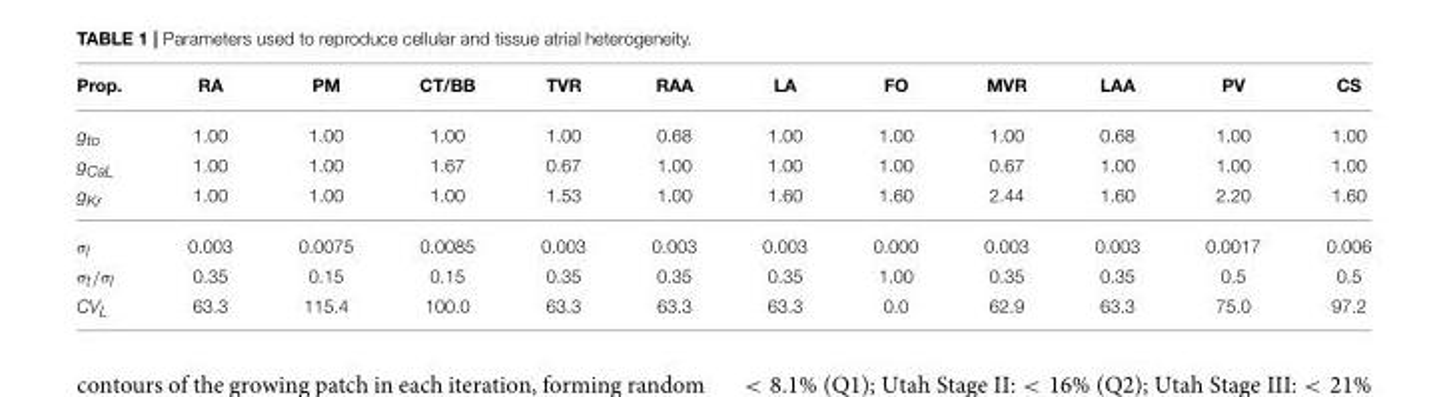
<table><thead><tr><td>Prop.</td><td>RA</td><td>PM</td><td>CT/BB</td><td>TVR</td><td>RAA</td><td>LA</td><td>FO</td><td>MVR</td><td>LAA</td><td>PV</td><td>CS</td></tr></thead><tbody><tr><td>g<sub>to</sub></td><td>1.00</td><td>1.00</td><td>1.00</td><td>1.00</td><td>0.68</td><td>1.00</td><td>1.00</td><td>1.00</td><td>0.68</td><td>1.00</td><td>1.00</td></tr><tr><td>g<sub>CaL</sub></td><td>1.00</td><td>1.00</td><td>1.67</td><td>0.67</td><td>1.00</td><td>1.00</td><td>1.00</td><td>0.67</td><td>1.00</td><td>1.00</td><td>1.00</td></tr><tr><td>g<sub>Kr</sub></td><td>1.00</td><td>1.00</td><td>1.00</td><td>1.53</td><td>1.00</td><td>1.60</td><td>1.60</td><td>2.44</td><td>1.60</td><td>2.20</td><td>1.60</td></tr><tr><td>σ<sub>l</sub></td><td>0.003</td><td>0.0075</td><td>0.0085</td><td>0.003</td><td>0.003</td><td>0.003</td><td>0.000</td><td>0.003</td><td>0.003</td><td>0.0017</td><td>0.006</td></tr><tr><td>σ<sub>t</sub>/σ<sub>l</sub></td><td>0.35</td><td>0.15</td><td>0.15</td><td>0.35</td><td>0.35</td><td>0.35</td><td>1.00</td><td>0.35</td><td>0.35</td><td>0.5</td><td>0.5</td></tr><tr><td>CV<sub>L</sub></td><td>63.3</td><td>115.4</td><td>100.0</td><td>63.3</td><td>63.3</td><td>63.3</td><td>0.0</td><td>62.9</td><td>63.3</td><td>75.0</td><td>97.2</td></tr></tbody></table>